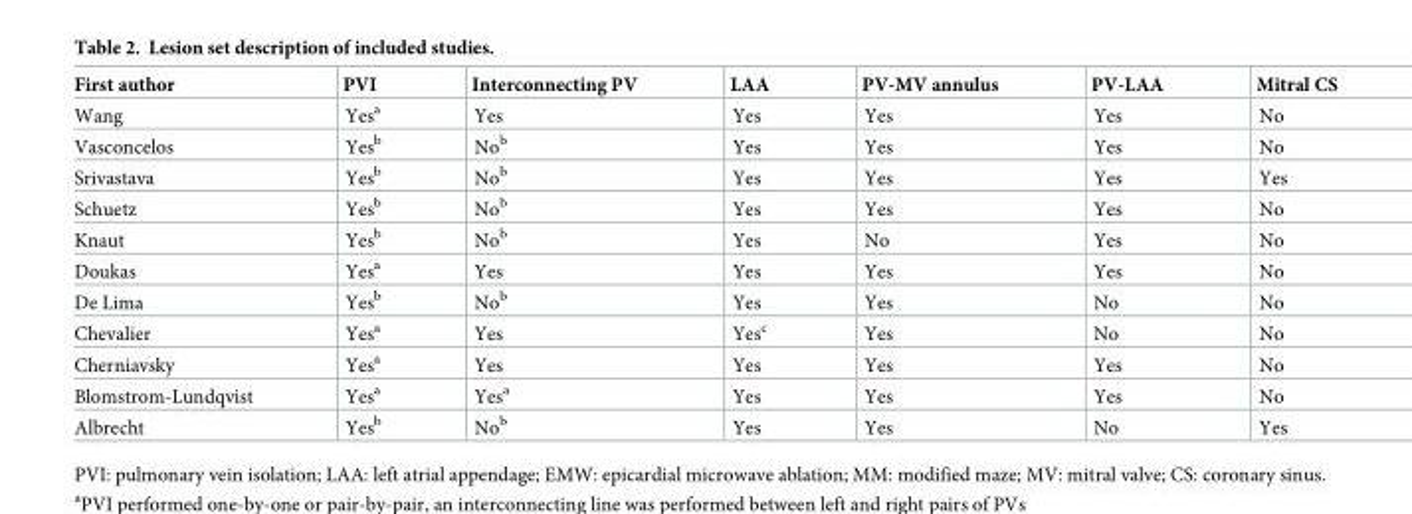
<table><thead><tr><td>First author</td><td>PVI</td><td>Interconnecting PV</td><td>LAA</td><td>PV-MV annulus</td><td>PV-LAA</td><td>Mitral CS</td></tr></thead><tbody><tr><td>Wang</td><td>Yes<sup>a</sup></td><td>Yes</td><td>Yes</td><td>Yes</td><td>Yes</td><td>No</td></tr><tr><td>Vasconcelos</td><td>Yes<sup>b</sup></td><td>No<sup>b</sup></td><td>Yes</td><td>Yes</td><td>Yes</td><td>No</td></tr><tr><td>Srivastava</td><td>Yes<sup>b</sup></td><td>No<sup>b</sup></td><td>Yes</td><td>Yes</td><td>Yes</td><td>Yes</td></tr><tr><td>Schuetz</td><td>Yes<sup>b</sup></td><td>No<sup>b</sup></td><td>Yes</td><td>Yes</td><td>Yes</td><td>No</td></tr><tr><td>Knaut</td><td>Yes<sup>b</sup></td><td>No<sup>b</sup></td><td>Yes</td><td>No</td><td>Yes</td><td>No</td></tr><tr><td>Doukas</td><td>Yes<sup>a</sup></td><td>Yes</td><td>Yes</td><td>Yes</td><td>Yes</td><td>No</td></tr><tr><td>De Lima</td><td>Yes<sup>b</sup></td><td>No<sup>b</sup></td><td>Yes</td><td>Yes</td><td>No</td><td>No</td></tr><tr><td>Chevalier</td><td>Yes<sup>a</sup></td><td>Yes</td><td>Yes<sup>c</sup></td><td>Yes</td><td>No</td><td>No</td></tr><tr><td>Cherniavsky</td><td>Yes<sup>a</sup></td><td>Yes</td><td>Yes</td><td>Yes</td><td>Yes</td><td>No</td></tr><tr><td>Blomstrom-Lundqvist</td><td>Yes<sup>a</sup></td><td>Yes<sup>a</sup></td><td>Yes</td><td>Yes</td><td>Yes</td><td>No</td></tr><tr><td>Albrecht</td><td>Yes<sup>b</sup></td><td>No<sup>b</sup></td><td>Yes</td><td>Yes</td><td>No</td><td>Yes</td></tr></tbody></table>